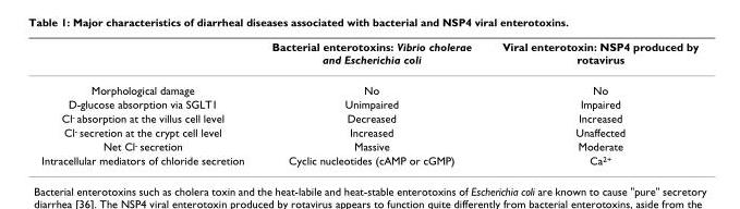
<table><thead><tr><td></td><td>Bacterial enterotoxins: Vibrio cholerae and Escherichia coli</td><td>Viral enterotoxin: NSP4 produced by rotavirus</td></tr></thead><tbody><tr><td>Morphological damage</td><td>No</td><td>No</td></tr><tr><td>D-glucose absorption via SGLT1</td><td>Unimpaired</td><td>Impaired</td></tr><tr><td>Cl<sup>-</sup> absorption at the villus cell level</td><td>Decreased</td><td>Increased</td></tr><tr><td>Cl<sup>-</sup> secretion at the crypt cell level</td><td>Increased</td><td>Unaffected</td></tr><tr><td>Net Cl<sup>-</sup> secretion</td><td>Massive</td><td>Moderate</td></tr><tr><td>Intracellular mediators of chloride secretion</td><td>Cyclic nucleotides (cAMP or cGMP)</td><td>Ca<sup>2+</sup></td></tr></tbody></table>